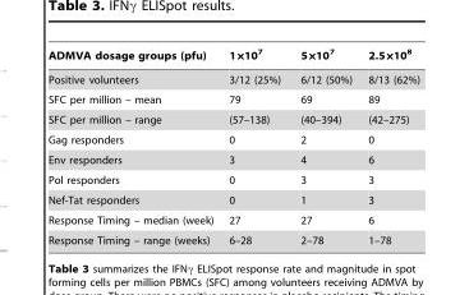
<table><thead><tr><td>ADMVA dosage groups (pfu)</td><td>1×10<sup>7</sup></td><td>5×10<sup>7</sup></td><td>2.5×10<sup>8</sup></td></tr></thead><tbody><tr><td>Positive volunteers</td><td>3/12 (25%)</td><td>6/12 (50%)</td><td>8/13 (62%)</td></tr><tr><td>SFC per million – mean</td><td>79</td><td>69</td><td>89</td></tr><tr><td>SFC per million – range</td><td>(57–138)</td><td>(40–394)</td><td>(42–275)</td></tr><tr><td>Gag responders</td><td>0</td><td>2</td><td>0</td></tr><tr><td>Env responders</td><td>3</td><td>4</td><td>6</td></tr><tr><td>Pol responders</td><td>0</td><td>3</td><td>3</td></tr><tr><td>Nef-Tat responders</td><td>0</td><td>1</td><td>3</td></tr><tr><td>Response Timing – median (week)</td><td>27</td><td>27</td><td>6</td></tr><tr><td>Response Timing – range (weeks)</td><td>6–28</td><td>2–78</td><td>1–78</td></tr></tbody></table>